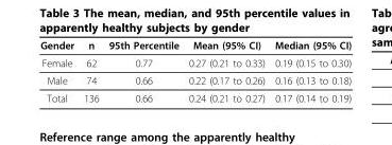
<table><thead><tr><td>Gender</td><td>n</td><td>95th Percentile</td><td>Mean (95% CI)</td><td>Median (95% CI)</td></tr></thead><tbody><tr><td>Female</td><td>62</td><td>0.77</td><td>0.27 (0.21 to 0.33)</td><td>0.19 (0.15 to 0.30)</td></tr><tr><td>Male</td><td>74</td><td>0.66</td><td>0.22 (0.17 to 0.26)</td><td>0.16 (0.13 to 0.18)</td></tr><tr><td>Total</td><td>136</td><td>0.66</td><td>0.24 (0.21 to 0.27)</td><td>0.17 (0.14 to 0.19)</td></tr></tbody></table>